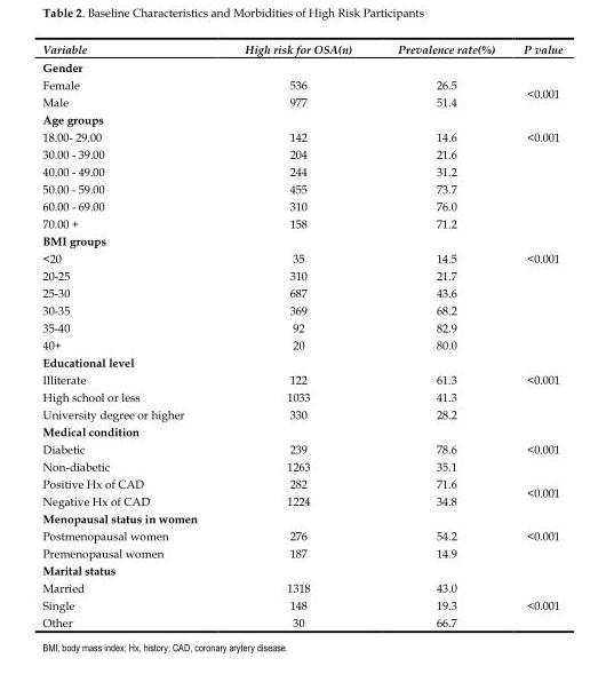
<table><thead><tr><td>Variable</td><td>High risk for OSA(n)</td><td>Prevalence rate(%)</td><td>P value</td></tr></thead><tbody><tr><td colspan="4">Gender</td></tr><tr><td>Female</td><td>536</td><td>26.5</td><td rowspan="2">&lt;0.001</td></tr><tr><td>Male</td><td>977</td><td>51.4</td></tr><tr><td colspan="4">Age groups</td></tr><tr><td>18.00- 29.00</td><td>142</td><td>14.6</td><td rowspan="6">&lt;0.001</td></tr><tr><td>30.00 - 39.00</td><td>204</td><td>21.6</td></tr><tr><td>40.00 - 49.00</td><td>244</td><td>31.2</td></tr><tr><td>50.00 - 59.00</td><td>455</td><td>73.7</td></tr><tr><td>60.00 - 69.00</td><td>310</td><td>76.0</td></tr><tr><td>70.00 +</td><td>158</td><td>71.2</td></tr><tr><td colspan="4">BMI groups</td></tr><tr><td>&lt;20</td><td>35</td><td>14.5</td><td rowspan="6">&lt;0.001</td></tr><tr><td>20-25</td><td>310</td><td>21.7</td></tr><tr><td>25-30</td><td>687</td><td>43.6</td></tr><tr><td>30-35</td><td>369</td><td>68.2</td></tr><tr><td>35-40</td><td>92</td><td>82.9</td></tr><tr><td>40+</td><td>20</td><td>80.0</td></tr><tr><td colspan="4">Educational level</td></tr><tr><td>Illiterate</td><td>122</td><td>61.3</td><td rowspan="3">&lt;0.001</td></tr><tr><td>High school or less</td><td>1033</td><td>41.3</td></tr><tr><td>University degree or higher</td><td>330</td><td>28.2</td></tr><tr><td colspan="4">Medical condition</td></tr><tr><td>Diabetic</td><td>239</td><td>78.6</td><td rowspan="2">&lt;0.001</td></tr><tr><td>Non-diabetic</td><td>1263</td><td>35.1</td></tr><tr><td>Positive Hx of CAD</td><td>282</td><td>71.6</td><td rowspan="2">&lt;0.001</td></tr><tr><td>Negative Hx of CAD</td><td>1224</td><td>34.8</td></tr><tr><td colspan="4">Menopausal status in women</td></tr><tr><td>Postmenopausal women</td><td>276</td><td>54.2</td><td rowspan="2">&lt;0.001</td></tr><tr><td>Premenopausal women</td><td>187</td><td>14.9</td></tr><tr><td colspan="4">Marital status</td></tr><tr><td>Married</td><td>1318</td><td>43.0</td><td rowspan="3">&lt;0.001</td></tr><tr><td>Single</td><td>148</td><td>19.3</td></tr><tr><td>Other</td><td>30</td><td>66.7</td></tr></tbody></table>